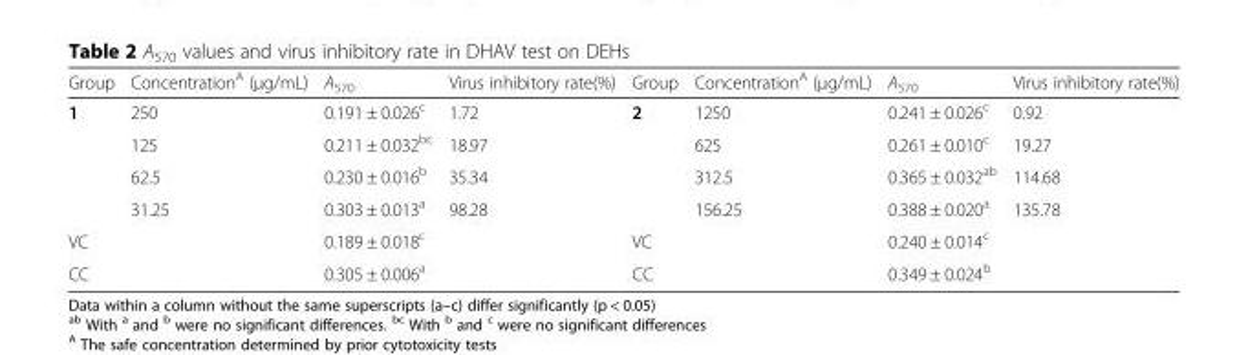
<table><thead><tr><td>Group</td><td>Concentration<sup>A</sup> (μg/mL)</td><td>A<sub>570</sub></td><td>Virus inhibitory rate(%)</td><td>Group</td><td>Concentration<sup>A</sup> (μg/mL)</td><td>A<sub>570</sub></td><td>Virus inhibitory rate(%)</td></tr></thead><tbody><tr><td rowspan="4">1</td><td>250</td><td>0.191 ± 0.026<sup>c</sup></td><td>1.72</td><td>2</td><td>1250</td><td>0.241 ± 0.026<sup>c</sup></td><td>0.92</td></tr><tr><td>125</td><td>0.211 ± 0.032<sup>bc</sup></td><td>18.97</td><td></td><td>625</td><td>0.261 ± 0.010<sup>c</sup></td><td>19.27</td></tr><tr><td>62.5</td><td>0.230 ± 0.016<sup>b</sup></td><td>35.34</td><td></td><td>312.5</td><td>0.365 ± 0.032<sup>ab</sup></td><td>114.68</td></tr><tr><td>31.25</td><td>0.303 ± 0.013<sup>a</sup></td><td>98.28</td><td></td><td>156.25</td><td>0.388 ± 0.020<sup>a</sup></td><td>135.78</td></tr><tr><td>VC</td><td></td><td>0.189 ± 0.018<sup>c</sup></td><td></td><td>VC</td><td></td><td>0.240 ± 0.014<sup>c</sup></td><td></td></tr><tr><td>CC</td><td></td><td>0.305 ± 0.006<sup>a</sup></td><td></td><td>CC</td><td></td><td>0.349 ± 0.024<sup>b</sup></td><td></td></tr></tbody></table>